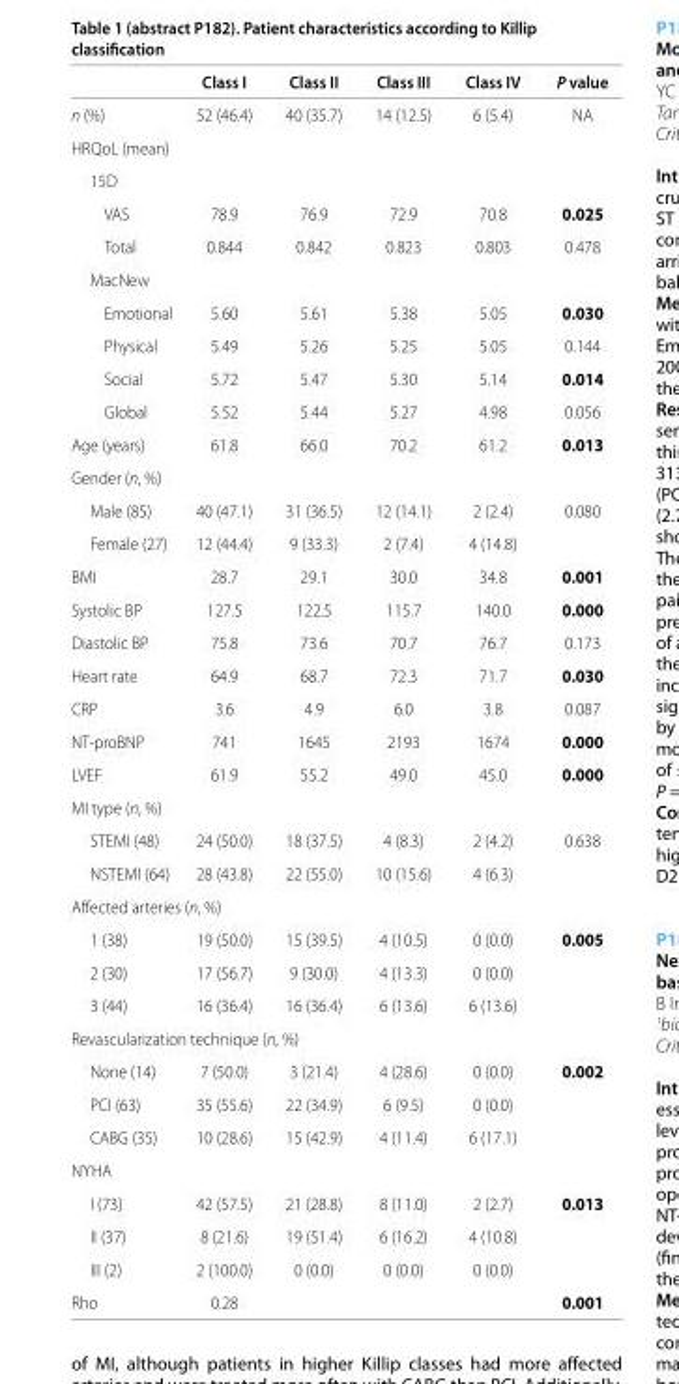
<table><thead><tr><td></td><td>Class I</td><td>Class II</td><td>Class III</td><td>Class IV</td><td>P value</td></tr></thead><tbody><tr><td>n (%)</td><td>52 (46.4)</td><td>40 (35.7)</td><td>14 (12.5)</td><td>6 (5.4)</td><td>NA</td></tr><tr><td colspan="6">HRQoL (mean)</td></tr><tr><td colspan="6">15D</td></tr><tr><td>VAS</td><td>78.9</td><td>76.9</td><td>72.9</td><td>70.8</td><td>0.025</td></tr><tr><td>Total</td><td>0.844</td><td>0.842</td><td>0.823</td><td>0.803</td><td>0.478</td></tr><tr><td colspan="6">MacNew</td></tr><tr><td>Emotional</td><td>5.60</td><td>5.61</td><td>5.38</td><td>5.05</td><td>0.030</td></tr><tr><td>Physical</td><td>5.49</td><td>5.26</td><td>5.25</td><td>5.05</td><td>0.144</td></tr><tr><td>Social</td><td>5.72</td><td>5.47</td><td>5.30</td><td>5.14</td><td>0.014</td></tr><tr><td>Global</td><td>5.52</td><td>5.44</td><td>5.27</td><td>4.98</td><td>0.056</td></tr><tr><td>Age (years)</td><td>61.8</td><td>66.0</td><td>70.2</td><td>61.2</td><td>0.013</td></tr><tr><td colspan="6">Gender (n, %)</td></tr><tr><td>Male (85)</td><td>40 (47.1)</td><td>31 (36.5)</td><td>12 (14.1)</td><td>2 (2.4)</td><td>0.080</td></tr><tr><td>Female (27)</td><td>12 (44.4)</td><td>9 (33.3)</td><td>2 (7.4)</td><td>4 (14.8)</td><td></td></tr><tr><td>ΒΜΙ</td><td>28.7</td><td>29.1</td><td>30.0</td><td>34.8</td><td>0.001</td></tr><tr><td>Systolic BP</td><td>127.5</td><td>122.5</td><td>115.7</td><td>140.0</td><td>0.000</td></tr><tr><td>Diastolic BP</td><td>75.8</td><td>73.6</td><td>70.7</td><td>76.7</td><td>0.173</td></tr><tr><td>Heart rate</td><td>64.9</td><td>68.7</td><td>72.3</td><td>71.7</td><td>0.030</td></tr><tr><td>CRP</td><td>3.6</td><td>4.9</td><td>6.0</td><td>3.8</td><td>0.087</td></tr><tr><td>NT-proBNP</td><td>741</td><td>1645</td><td>2193</td><td>1674</td><td>0.000</td></tr><tr><td>LVEF</td><td>61.9</td><td>55.2</td><td>49.0</td><td>45.0</td><td>0.000</td></tr><tr><td colspan="6">MI type (n, %)</td></tr><tr><td>STEMI (48)</td><td>24 (50.0)</td><td>18 (37.5)</td><td>4 (8.3)</td><td>2 (4.2)</td><td>0.638</td></tr><tr><td>NSTEMI (64)</td><td>28 (43.8)</td><td>22 (55.0)</td><td>10 (15.6)</td><td>4 (6.3)</td><td></td></tr><tr><td colspan="6">Aff ected arteries (n, %)</td></tr><tr><td>1 (38)</td><td>19 (50.0)</td><td>15 (39.5)</td><td>4 (10.5)</td><td>0 (0.0)</td><td>0.005</td></tr><tr><td>2 (30)</td><td>17 (56.7)</td><td>9 (30.0)</td><td>4 (13.3)</td><td>0 (0.0)</td><td></td></tr><tr><td>3 (44)</td><td>16 (36.4)</td><td>16 (36.4)</td><td>6 (13.6)</td><td>6 (13.6)</td><td></td></tr><tr><td colspan="6">Revascularization technique (n, %)</td></tr><tr><td>None (14)</td><td>7 (50.0)</td><td>3 (21.4)</td><td>4 (28.6)</td><td>0 (0.0)</td><td>0.002</td></tr><tr><td>PCI (63)</td><td>35 (55.6)</td><td>22 (34.9)</td><td>6 (9.5)</td><td>0 (0.0)</td><td></td></tr><tr><td>CABG (35)</td><td>10 (28.6)</td><td>15 (42.9)</td><td>4 (11.4)</td><td>6 (17.1)</td><td></td></tr><tr><td colspan="6">ΝΥΗΑ</td></tr><tr><td>Ι (73)</td><td>42 (57.5)</td><td>21 (28.8)</td><td>8 (11.0)</td><td>2 (2.7)</td><td>0.013</td></tr><tr><td>ΙΙ (37)</td><td>8 (21.6)</td><td>19 (51.4)</td><td>6 (16.2)</td><td>4 (10.8)</td><td></td></tr><tr><td>ΙΙΙ (2)</td><td>2 (100.0)</td><td>0 (0.0)</td><td>0 (0.0)</td><td>0 (0.0)</td><td></td></tr><tr><td>Rho</td><td>0.28</td><td></td><td></td><td></td><td>0.001</td></tr></tbody></table>